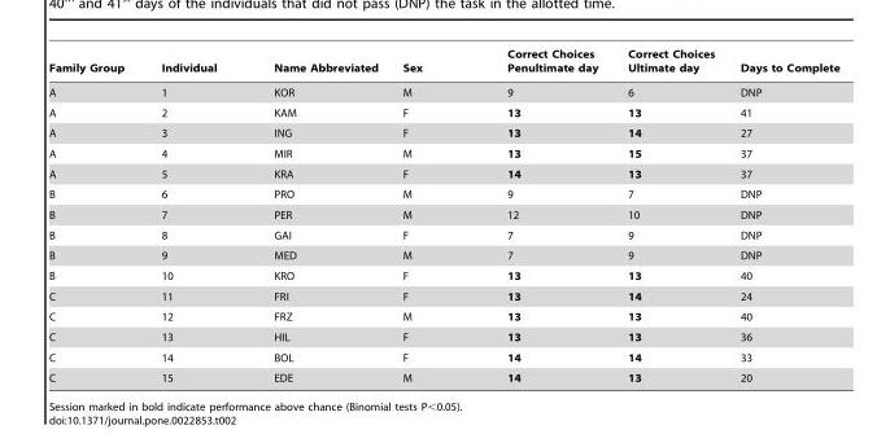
<table><thead><tr><td>Family Group</td><td>Individual</td><td>Name Abbreviated</td><td>Sex</td><td>Correct Choices Penultimate day</td><td>Correct Choices Ultimate day</td><td>Days to Complete</td></tr></thead><tbody><tr><td>A</td><td>1</td><td>KOR</td><td>M</td><td>9</td><td>6</td><td>DNP</td></tr><tr><td>A</td><td>2</td><td>KAM</td><td>F</td><td>13</td><td>13</td><td>41</td></tr><tr><td>A</td><td>3</td><td>ING</td><td>F</td><td>13</td><td>14</td><td>27</td></tr><tr><td>A</td><td>4</td><td>MIR</td><td>M</td><td>13</td><td>15</td><td>37</td></tr><tr><td>A</td><td>5</td><td>KRA</td><td>F</td><td>14</td><td>13</td><td>37</td></tr><tr><td>B</td><td>6</td><td>PRO</td><td>M</td><td>9</td><td>7</td><td>DNP</td></tr><tr><td>B</td><td>7</td><td>PER</td><td>M</td><td>12</td><td>10</td><td>DNP</td></tr><tr><td>B</td><td>8</td><td>GAI</td><td>F</td><td>7</td><td>9</td><td>DNP</td></tr><tr><td>B</td><td>9</td><td>MED</td><td>M</td><td>7</td><td>9</td><td>DNP</td></tr><tr><td>B</td><td>10</td><td>KRO</td><td>F</td><td>13</td><td>13</td><td>40</td></tr><tr><td>C</td><td>11</td><td>FRI</td><td>F</td><td>13</td><td>14</td><td>24</td></tr><tr><td>C</td><td>12</td><td>FRZ</td><td>M</td><td>13</td><td>13</td><td>40</td></tr><tr><td>C</td><td>13</td><td>HIL</td><td>F</td><td>13</td><td>13</td><td>36</td></tr><tr><td>C</td><td>14</td><td>BOL</td><td>F</td><td>14</td><td>14</td><td>33</td></tr><tr><td>C</td><td>15</td><td>EDE</td><td>M</td><td>14</td><td>13</td><td>20</td></tr></tbody></table>